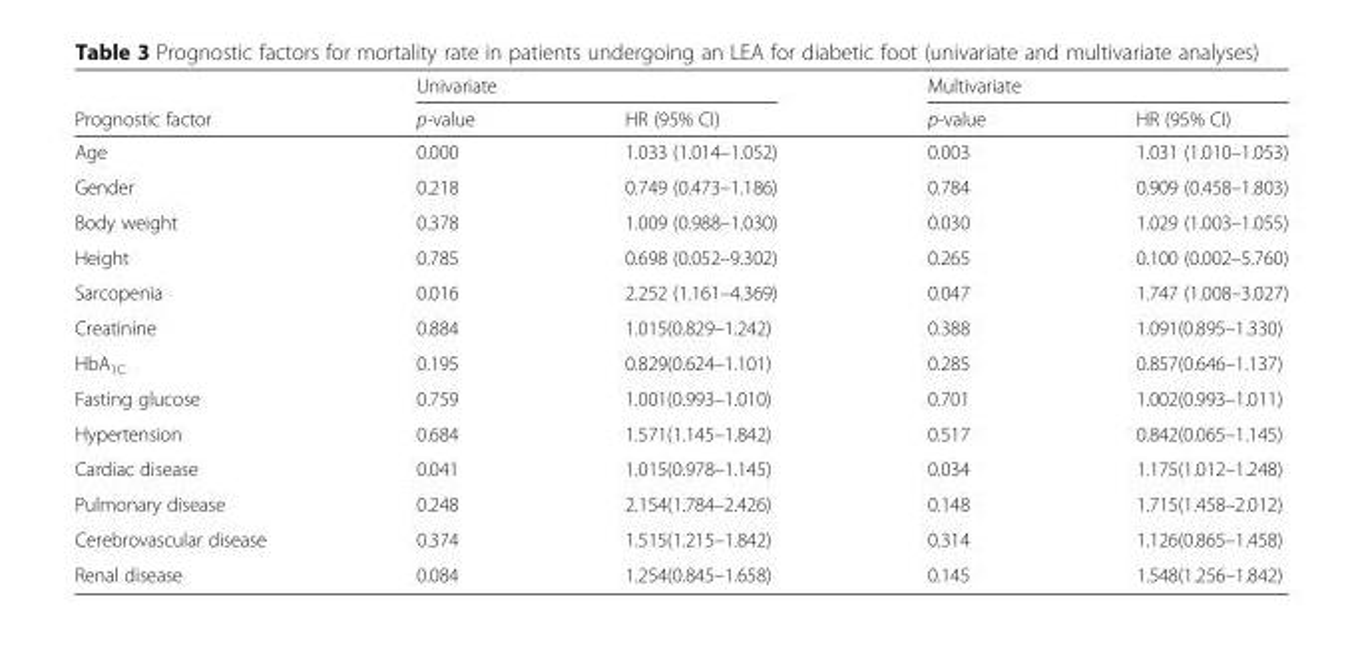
<table><thead><tr><td rowspan="2">Prognostic factor</td><td colspan="2">Univariate</td><td colspan="2">Multivariate</td></tr><tr><td>p-value</td><td>HR (95% CI)</td><td>p-value</td><td>HR (95% CI)</td></tr></thead><tbody><tr><td>Age</td><td>0.000</td><td>1.033 (1.014–1.052)</td><td>0.003</td><td>1.031 (1.010–1.053)</td></tr><tr><td>Gender</td><td>0.218</td><td>0.749 (0.473–1.186)</td><td>0.784</td><td>0.909 (0.458–1.803)</td></tr><tr><td>Body weight</td><td>0.378</td><td>1.009 (0.988–1.030)</td><td>0.030</td><td>1.029 (1.003–1.055)</td></tr><tr><td>Height</td><td>0.785</td><td>0.698 (0.052–9.302)</td><td>0.265</td><td>0.100 (0.002–5.760)</td></tr><tr><td>Sarcopenia</td><td>0.016</td><td>2.252 (1.161–4.369)</td><td>0.047</td><td>1.747 (1.008–3.027)</td></tr><tr><td>Creatinine</td><td>0.884</td><td>1.015(0.829–1.242)</td><td>0.388</td><td>1.091(0.895–1.330)</td></tr><tr><td>HbA<sub>1C</sub></td><td>0.195</td><td>0.829(0.624–1.101)</td><td>0.285</td><td>0.857(0.646–1.137)</td></tr><tr><td>Fasting glucose</td><td>0.759</td><td>1.001(0.993–1.010)</td><td>0.701</td><td>1.002(0.993–1.011)</td></tr><tr><td>Hypertension</td><td>0.684</td><td>1.571(1.145–1.842)</td><td>0.517</td><td>0.842(0.065–1.145)</td></tr><tr><td>Cardiac disease</td><td>0.041</td><td>1.015(0.978–1.145)</td><td>0.034</td><td>1.175(1.012–1.248)</td></tr><tr><td>Pulmonary disease</td><td>0.248</td><td>2.154(1.784–2.426)</td><td>0.148</td><td>1.715(1.458–2.012)</td></tr><tr><td>Cerebrovascular disease</td><td>0.374</td><td>1.515(1.215–1.842)</td><td>0.314</td><td>1.126(0.865–1.458)</td></tr><tr><td>Renal disease</td><td>0.084</td><td>1.254(0.845–1.658)</td><td>0.145</td><td>1.548(1.256–1.842)</td></tr></tbody></table>